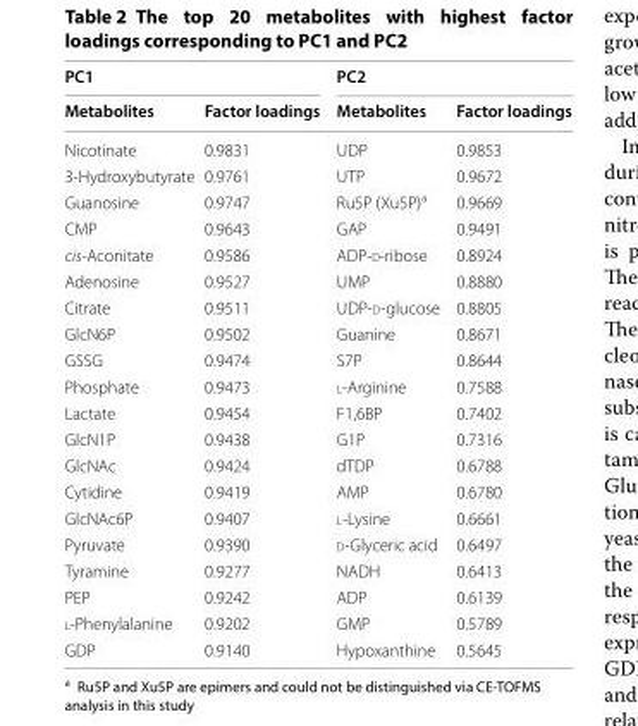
<table><thead><tr><td colspan="2">PC1</td><td colspan="2">PC2</td></tr><tr><td>Metabolites</td><td>Factor loadings</td><td>Metabolites</td><td>Factor loadings</td></tr></thead><tbody><tr><td>Nicotinate</td><td>0.9831</td><td>UDP</td><td>0.9853</td></tr><tr><td>3-Hydroxybutyrate</td><td>0.9761</td><td>UTP</td><td>0.9672</td></tr><tr><td>Guanosine</td><td>0.9747</td><td>Ru5P (Xu5P)<sup>a</sup></td><td>0.9669</td></tr><tr><td>CMP</td><td>0.9643</td><td>GAP</td><td>0.9491</td></tr><tr><td>cis-Aconitate</td><td>0.9586</td><td>ADP-d-ribose</td><td>0.8924</td></tr><tr><td>Adenosine</td><td>0.9527</td><td>UMP</td><td>0.8880</td></tr><tr><td>Citrate</td><td>0.9511</td><td>UDP-d-glucose</td><td>0.8805</td></tr><tr><td>GlcN6P</td><td>0.9502</td><td>Guanine</td><td>0.8671</td></tr><tr><td>GSSG</td><td>0.9474</td><td>S7P</td><td>0.8644</td></tr><tr><td>Phosphate</td><td>0.9473</td><td>l-Arginine</td><td>0.7588</td></tr><tr><td>Lactate</td><td>0.9454</td><td>F1,6BP</td><td>0.7402</td></tr><tr><td>GlcN1P</td><td>0.9438</td><td>G1P</td><td>0.7316</td></tr><tr><td>GlcNAc</td><td>0.9424</td><td>dTDP</td><td>0.6788</td></tr><tr><td>Cytidine</td><td>0.9419</td><td>AMP</td><td>0.6780</td></tr><tr><td>GlcNAc6P</td><td>0.9407</td><td>l-Lysine</td><td>0.6661</td></tr><tr><td>Pyruvate</td><td>0.9390</td><td>d-Glyceric acid</td><td>0.6497</td></tr><tr><td>Tyramine</td><td>0.9277</td><td>NADH</td><td>0.6413</td></tr><tr><td>PEP</td><td>0.9242</td><td>ADP</td><td>0.6139</td></tr><tr><td>l-Phenylalanine</td><td>0.9202</td><td>GMP</td><td>0.5789</td></tr><tr><td>GDP</td><td>0.9140</td><td>Hypoxanthine</td><td>0.5645</td></tr></tbody></table>